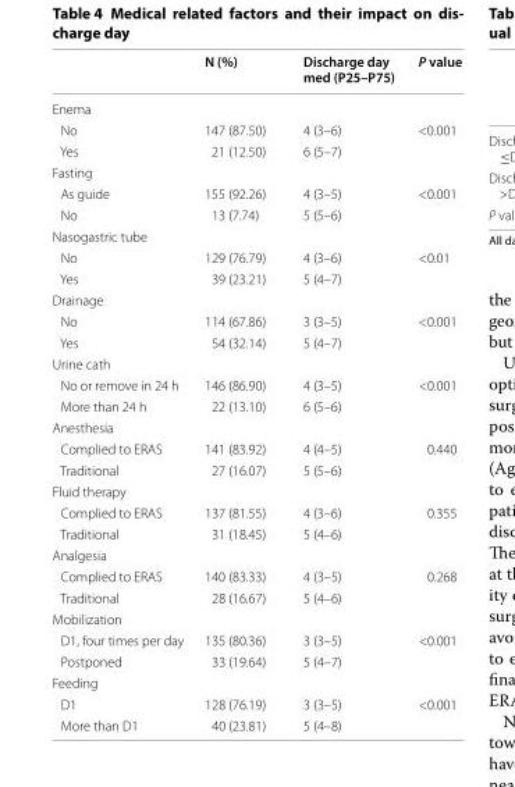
<table><thead><tr><td></td><td>N (%)</td><td>Discharge day med (P25–P75)</td><td>P value</td></tr></thead><tbody><tr><td colspan="4">Enema</td></tr><tr><td>No</td><td>147 (87.50)</td><td>4 (3–6)</td><td rowspan="2">&lt;0.001</td></tr><tr><td>Yes</td><td>21 (12.50)</td><td>6 (5–7)</td></tr><tr><td colspan="4">Fasting</td></tr><tr><td>As guide</td><td>155 (92.26)</td><td>4 (3–5)</td><td rowspan="2">&lt;0.001</td></tr><tr><td>No</td><td>13 (7.74)</td><td>5 (5–6)</td></tr><tr><td colspan="4">Nasogastric tube</td></tr><tr><td>No</td><td>129 (76.79)</td><td>4 (3–6)</td><td rowspan="2">&lt;0.01</td></tr><tr><td>Yes</td><td>39 (23.21)</td><td>5 (4–7)</td></tr><tr><td colspan="4">Drainage</td></tr><tr><td>No</td><td>114 (67.86)</td><td>3 (3–5)</td><td rowspan="2">&lt;0.001</td></tr><tr><td>Yes</td><td>54 (32.14)</td><td>5 (4–7)</td></tr><tr><td colspan="4">Urine cath</td></tr><tr><td>No or remove in 24 h</td><td>146 (86.90)</td><td>4 (3–5)</td><td rowspan="2">&lt;0.001</td></tr><tr><td>More than 24 h</td><td>22 (13.10)</td><td>6 (5–6)</td></tr><tr><td colspan="4">Anesthesia</td></tr><tr><td>Complied to ERAS</td><td>141 (83.92)</td><td>4 (4–5)</td><td rowspan="2">0.440</td></tr><tr><td>Traditional</td><td>27 (16.07)</td><td>5 (5–6)</td></tr><tr><td colspan="4">Fluid therapy</td></tr><tr><td>Complied to ERAS</td><td>137 (81.55)</td><td>4 (3–6)</td><td rowspan="2">0.355</td></tr><tr><td>Traditional</td><td>31 (18.45)</td><td>5 (4–6)</td></tr><tr><td colspan="4">Analgesia</td></tr><tr><td>Complied to ERAS</td><td>140 (83.33)</td><td>4 (3–5)</td><td rowspan="2">0.268</td></tr><tr><td>Traditional</td><td>28 (16.67)</td><td>5 (4–6)</td></tr><tr><td colspan="4">Mobilization</td></tr><tr><td>D1, four times per day</td><td>135 (80.36)</td><td>3 (3–5)</td><td rowspan="2">&lt;0.001</td></tr><tr><td>Postponed</td><td>33 (19.64)</td><td>5 (4–7)</td></tr><tr><td colspan="4">Feeding</td></tr><tr><td>D1</td><td>128 (76.19)</td><td>3 (3–5)</td><td rowspan="2">&lt;0.001</td></tr><tr><td>More than D1</td><td>40 (23.81)</td><td>5 (4–8)</td></tr></tbody></table>